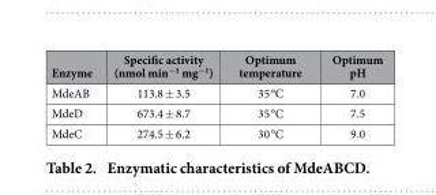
<table><thead><tr><td>Enzyme</td><td>Specific activity (nmol min<sup>−1</sup> mg<sup>−1</sup>)</td><td>Optimum temperature</td><td>Optimum pH</td></tr></thead><tbody><tr><td>MdeAB</td><td>113.8 ± 3.5</td><td>35 °C</td><td>7.0</td></tr><tr><td>MdeD</td><td>673.4 ± 8.7</td><td>35 °C</td><td>7.5</td></tr><tr><td>MdeC</td><td>274.5 ± 6.2</td><td>30 °C</td><td>9.0</td></tr></tbody></table>